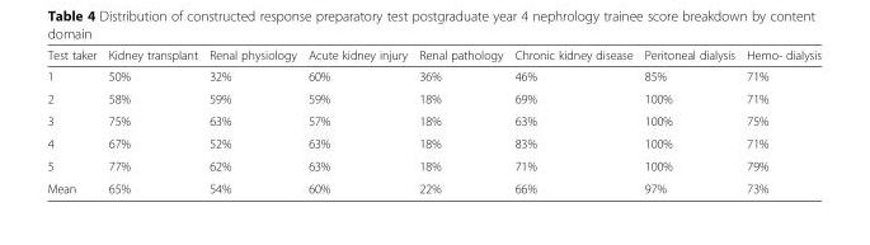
<table><thead><tr><td>Test taker</td><td>Kidney transplant</td><td>Renal physiology</td><td>Acute kidney injury</td><td>Renal pathology</td><td>Chronic kidney disease</td><td>Peritoneal dialysis</td><td>Hemo- dialysis</td></tr></thead><tbody><tr><td>1</td><td>50%</td><td>32%</td><td>60%</td><td>36%</td><td>46%</td><td>85%</td><td>71%</td></tr><tr><td>2</td><td>58%</td><td>59%</td><td>59%</td><td>18%</td><td>69%</td><td>100%</td><td>71%</td></tr><tr><td>3</td><td>75%</td><td>63%</td><td>57%</td><td>18%</td><td>63%</td><td>100%</td><td>75%</td></tr><tr><td>4</td><td>67%</td><td>52%</td><td>63%</td><td>18%</td><td>83%</td><td>100%</td><td>71%</td></tr><tr><td>5</td><td>77%</td><td>62%</td><td>63%</td><td>18%</td><td>71%</td><td>100%</td><td>79%</td></tr><tr><td>Mean</td><td>65%</td><td>54%</td><td>60%</td><td>22%</td><td>66%</td><td>97%</td><td>73%</td></tr></tbody></table>